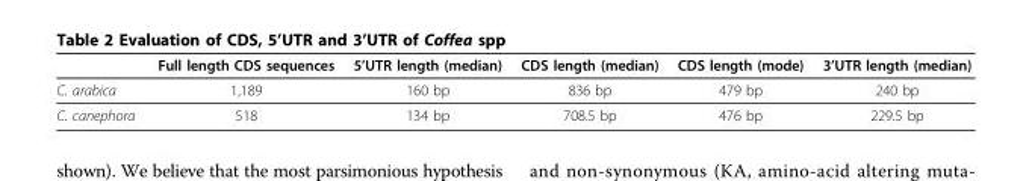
<table><thead><tr><td></td><td>Full length CDS sequences</td><td>5’UTR length (median)</td><td>CDS length (median)</td><td>CDS length (mode)</td><td>3’UTR length (median)</td></tr></thead><tbody><tr><td>C. arabica</td><td>1,189</td><td>160 bp</td><td>836 bp</td><td>479 bp</td><td>240 bp</td></tr><tr><td>C. canephora</td><td>518</td><td>134 bp</td><td>708.5 bp</td><td>476 bp</td><td>229.5 bp</td></tr></tbody></table>